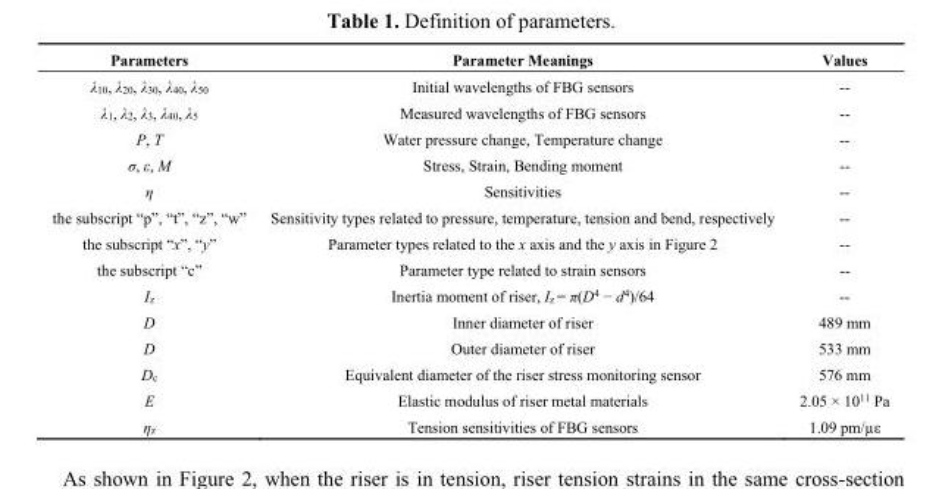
<table><thead><tr><td>Parameters</td><td>Parameter Meanings</td><td>Values</td></tr></thead><tbody><tr><td>λ<sub>10</sub>, λ<sub>20</sub>, λ<sub>30</sub>, λ<sub>40</sub>, λ<sub>50</sub></td><td>Initial wavelengths of FBG sensors</td><td>--</td></tr><tr><td>λ<sub>1</sub>, λ<sub>2</sub>, λ<sub>3</sub>, λ<sub>40</sub>, λ<sub>5</sub></td><td>Measured wavelengths of FBG sensors</td><td>--</td></tr><tr><td>P, T</td><td>Water pressure change, Temperature change</td><td>--</td></tr><tr><td>σ, ε, M</td><td>Stress, Strain, Bending moment</td><td>--</td></tr><tr><td>η</td><td>Sensitivities</td><td>--</td></tr><tr><td>the subscript “p”, “t”, “z”, “w”</td><td>Sensitivity types related to pressure, temperature, tension and bend, respectively</td><td>--</td></tr><tr><td>the subscript “x”, “y”</td><td>Parameter types related to the x axis and the y axis in Figure 2</td><td>--</td></tr><tr><td>the subscript “c”</td><td>Parameter type related to strain sensors</td><td>--</td></tr><tr><td>I<sub>z</sub></td><td>Inertia moment of riser, I<sub>z</sub> = π(D<sup>4</sup> − d<sup>4</sup>)/64</td><td>--</td></tr><tr><td>D</td><td>Inner diameter of riser</td><td>489 mm</td></tr><tr><td>D</td><td>Outer diameter of riser</td><td>533 mm</td></tr><tr><td>D<sub>c</sub></td><td>Equivalent diameter of the riser stress monitoring sensor</td><td>576 mm</td></tr><tr><td>E</td><td>Elastic modulus of riser metal materials</td><td>2.05 × 10<sup>11</sup> Pa</td></tr><tr><td>η<sub>z</sub></td><td>Tension sensitivities of FBG sensors</td><td>1.09 pm/µε</td></tr></tbody></table>